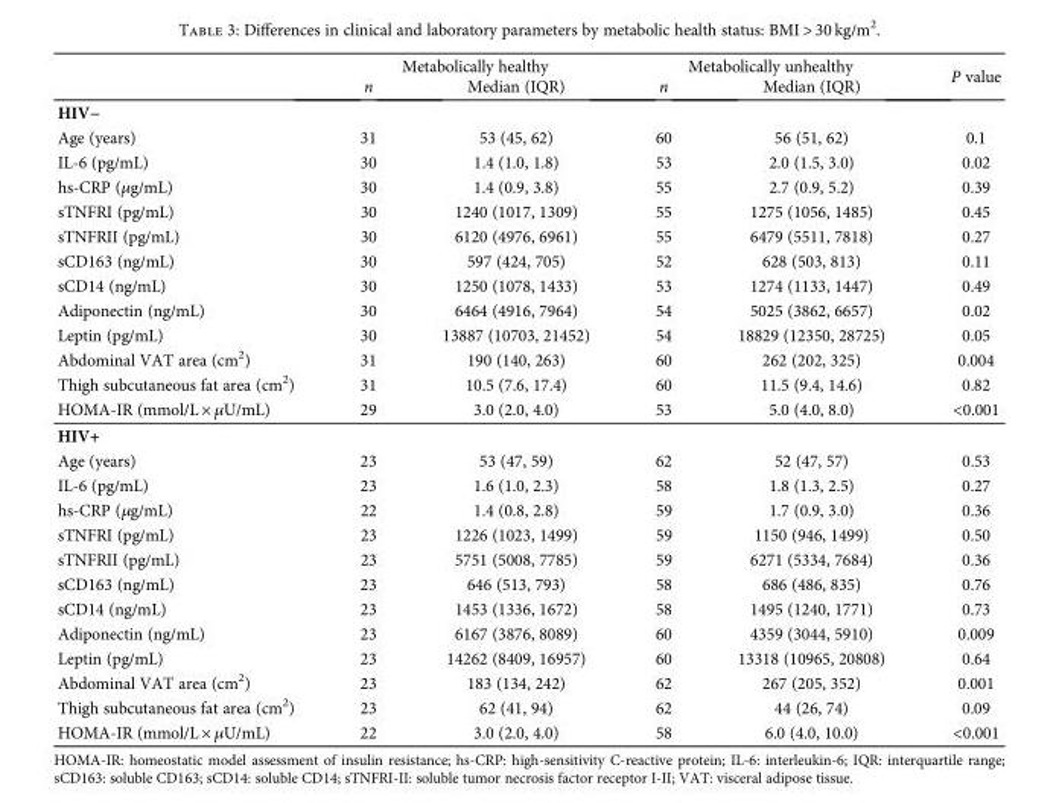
<table><thead><tr><td rowspan="2"></td><td colspan="2">Metabolically healthy</td><td colspan="2">Metabolically unhealthy</td><td rowspan="2">P value</td></tr><tr><td>n</td><td>Median (IQR)</td><td>n</td><td>Median (IQR)</td></tr></thead><tbody><tr><td colspan="6">HIV−</td></tr><tr><td>Age (years)</td><td>31</td><td>53 (45, 62)</td><td>60</td><td>56 (51, 62)</td><td>0.1</td></tr><tr><td>IL-6 (pg/mL)</td><td>30</td><td>1.4 (1.0, 1.8)</td><td>53</td><td>2.0 (1.5, 3.0)</td><td>0.02</td></tr><tr><td>hs-CRP (μg/mL)</td><td>30</td><td>1.4 (0.9, 3.8)</td><td>55</td><td>2.7 (0.9, 5.2)</td><td>0.39</td></tr><tr><td>sTNFRI (pg/mL)</td><td>30</td><td>1240 (1017, 1309)</td><td>55</td><td>1275 (1056, 1485)</td><td>0.45</td></tr><tr><td>sTNFRII (pg/mL)</td><td>30</td><td>6120 (4976, 6961)</td><td>55</td><td>6479 (5511, 7818)</td><td>0.27</td></tr><tr><td>sCD163 (ng/mL)</td><td>30</td><td>597 (424, 705)</td><td>52</td><td>628 (503, 813)</td><td>0.11</td></tr><tr><td>sCD14 (ng/mL)</td><td>30</td><td>1250 (1078, 1433)</td><td>53</td><td>1274 (1133, 1447)</td><td>0.49</td></tr><tr><td>Adiponectin (ng/mL)</td><td>30</td><td>6464 (4916, 7964)</td><td>54</td><td>5025 (3862, 6657)</td><td>0.02</td></tr><tr><td>Leptin (pg/mL)</td><td>30</td><td>13887 (10703, 21452)</td><td>54</td><td>18829 (12350, 28725)</td><td>0.05</td></tr><tr><td>Abdominal VAT area (cm<sup>2</sup>)</td><td>31</td><td>190 (140, 263)</td><td>60</td><td>262 (202, 325)</td><td>0.004</td></tr><tr><td>Thigh subcutaneous fat area (cm<sup>2</sup>)</td><td>31</td><td>10.5 (7.6, 17.4)</td><td>60</td><td>11.5 (9.4, 14.6)</td><td>0.82</td></tr><tr><td>HOMA-IR (mmol/L × μU/mL)</td><td>29</td><td>3.0 (2.0, 4.0)</td><td>53</td><td>5.0 (4.0, 8.0)</td><td>&lt;0.001</td></tr><tr><td colspan="6">HIV+</td></tr><tr><td>Age (years)</td><td>23</td><td>53 (47, 59)</td><td>62</td><td>52 (47, 57)</td><td>0.53</td></tr><tr><td>IL-6 (pg/mL)</td><td>23</td><td>1.6 (1.0, 2.3)</td><td>58</td><td>1.8 (1.3, 2.5)</td><td>0.27</td></tr><tr><td>hs-CRP (μg/mL)</td><td>22</td><td>1.4 (0.8, 2.8)</td><td>59</td><td>1.7 (0.9, 3.0)</td><td>0.36</td></tr><tr><td>sTNFRI (pg/mL)</td><td>23</td><td>1226 (1023, 1499)</td><td>59</td><td>1150 (946, 1499)</td><td>0.50</td></tr><tr><td>sTNFRII (pg/mL)</td><td>23</td><td>5751 (5008, 7785)</td><td>59</td><td>6271 (5334, 7684)</td><td>0.36</td></tr><tr><td>sCD163 (ng/mL)</td><td>23</td><td>646 (513, 793)</td><td>58</td><td>686 (486, 835)</td><td>0.76</td></tr><tr><td>sCD14 (ng/mL)</td><td>23</td><td>1453 (1336, 1672)</td><td>58</td><td>1495 (1240, 1771)</td><td>0.73</td></tr><tr><td>Adiponectin (ng/mL)</td><td>23</td><td>6167 (3876, 8089)</td><td>60</td><td>4359 (3044, 5910)</td><td>0.009</td></tr><tr><td>Leptin (pg/mL)</td><td>23</td><td>14262 (8409, 16957)</td><td>60</td><td>13318 (10965, 20808)</td><td>0.64</td></tr><tr><td>Abdominal VAT area (cm<sup>2</sup>)</td><td>23</td><td>183 (134, 242)</td><td>62</td><td>267 (205, 352)</td><td>0.001</td></tr><tr><td>Thigh subcutaneous fat area (cm<sup>2</sup>)</td><td>23</td><td>62 (41, 94)</td><td>62</td><td>44 (26, 74)</td><td>0.09</td></tr><tr><td>HOMA-IR (mmol/L × μU/mL)</td><td>22</td><td>3.0 (2.0, 4.0)</td><td>58</td><td>6.0 (4.0, 10.0)</td><td>&lt;0.001</td></tr></tbody></table>